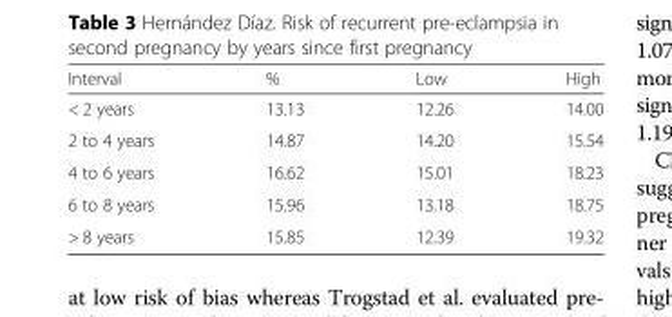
<table><thead><tr><td>Interval</td><td>%</td><td>Low</td><td>High</td></tr></thead><tbody><tr><td>&lt; 2 years</td><td>13.13</td><td>12.26</td><td>14.00</td></tr><tr><td>2 to 4 years</td><td>14.87</td><td>14.20</td><td>15.54</td></tr><tr><td>4 to 6 years</td><td>16.62</td><td>15.01</td><td>18.23</td></tr><tr><td>6 to 8 years</td><td>15.96</td><td>13.18</td><td>18.75</td></tr><tr><td>&gt; 8 years</td><td>15.85</td><td>12.39</td><td>19.32</td></tr></tbody></table>